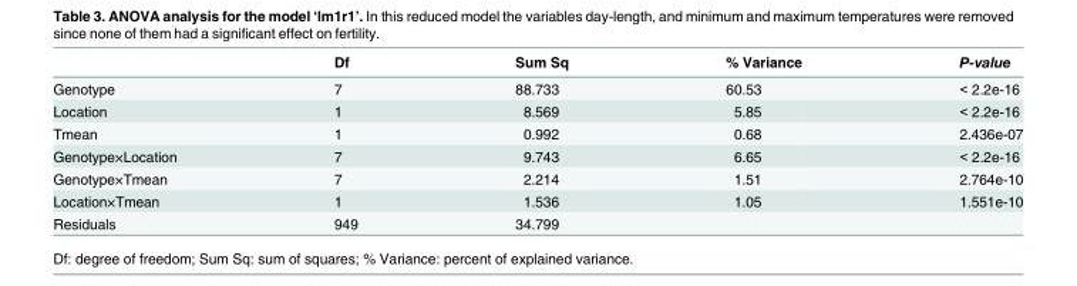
<table><thead><tr><td></td><td>Df</td><td>Sum Sq</td><td>% Variance</td><td>P-value</td></tr></thead><tbody><tr><td>Genotype</td><td>7</td><td>88.733</td><td>60.53</td><td>&lt; 2.2e-16</td></tr><tr><td>Location</td><td>1</td><td>8.569</td><td>5.85</td><td>&lt; 2.2e-16</td></tr><tr><td>Tmean</td><td>1</td><td>0.992</td><td>0.68</td><td>2.436e-07</td></tr><tr><td>Genotype×Location</td><td>7</td><td>9.743</td><td>6.65</td><td>&lt; 2.2e-16</td></tr><tr><td>Genotype×Tmean</td><td>7</td><td>2.214</td><td>1.51</td><td>2.764e-10</td></tr><tr><td>Location×Tmean</td><td>1</td><td>1.536</td><td>1.05</td><td>1.551e-10</td></tr><tr><td>Residuals</td><td>949</td><td>34.799</td><td></td><td></td></tr></tbody></table>